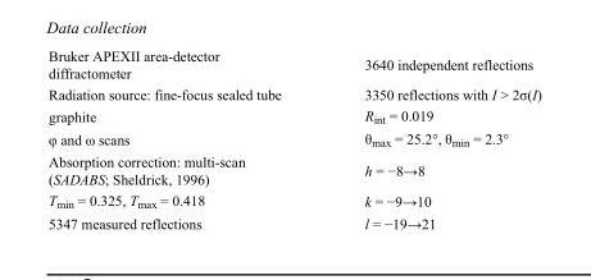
<table><tbody><tr><td>Bruker APEXII area-detector diffractometer</td><td>3640 independent reflections</td></tr><tr><td>Radiation source: fine-focus sealed tube</td><td>3350 reflections with I &gt; 2σ(I)</td></tr><tr><td>graphite</td><td>R<sub>int</sub> = 0.019</td></tr><tr><td>φ and ω scans</td><td>θ<sub>max</sub> = 25.2°, θ<sub>min</sub> = 2.3°</td></tr><tr><td>Absorption correction: multi-scan (SADABS; Sheldrick, 1996)</td><td>h = −8→8</td></tr><tr><td>T<sub>min</sub> = 0.325, T<sub>max</sub> = 0.418</td><td>k = −9→10</td></tr><tr><td>5347 measured reflections</td><td>l = −19→21</td></tr></tbody></table>